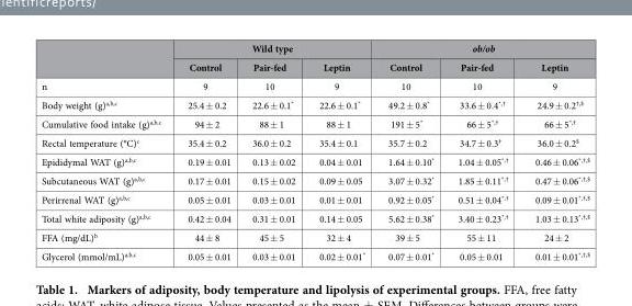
<table><thead><tr><td rowspan="2"></td><td colspan="3">Wild type</td><td colspan="3">ob/ob</td></tr><tr><td>Control</td><td>Pair-fed</td><td>Leptin</td><td>Control</td><td>Pair-fed</td><td>Leptin</td></tr></thead><tbody><tr><td>n</td><td>9</td><td>10</td><td>9</td><td>10</td><td>10</td><td>9</td></tr><tr><td>Body weight (g)<sup>a,b,c</sup></td><td>25.4 ± 0.2</td><td>22.6 ± 0.1*</td><td>22.6 ± 0.1*</td><td>49.2 ± 0.8*</td><td>33.6 ± 0.4<sup>*,†</sup></td><td>24.9 ± 0.2<sup>†,$</sup></td></tr><tr><td>Cumulative food intake (g)<sup>a,b,c</sup></td><td>94 ± 2</td><td>88 ± 1</td><td>88 ± 1</td><td>191 ± 5*</td><td>66 ± 5<sup>*,†</sup></td><td>66 ± 5<sup>*,†</sup></td></tr><tr><td>Rectal temperature (°C)<sup>c</sup></td><td>35.4 ± 0.2</td><td>36.0 ± 0.2</td><td>35.4 ± 0.1</td><td>35.7 ± 0.2</td><td>34.7 ± 0.3<sup>†</sup></td><td>36.0 ± 0.2<sup>$</sup></td></tr><tr><td>Epididymal WAT (g)<sup>a,b,c</sup></td><td>0.19 ± 0.01</td><td>0.13 ± 0.02</td><td>0.04 ± 0.01</td><td>1.64 ± 0.10*</td><td>1.04 ± 0.05<sup>*,†</sup></td><td>0.46 ± 0.06<sup>*,†,$</sup></td></tr><tr><td>Subcutaneous WAT (g)<sup>a,b,c</sup></td><td>0.17 ± 0.01</td><td>0.15 ± 0.02</td><td>0.09 ± 0.05</td><td>3.07 ± 0.32*</td><td>1.85 ± 0.11<sup>*,†</sup></td><td>0.47 ± 0.06<sup>*,†,$</sup></td></tr><tr><td>Perirrenal WAT (g)<sup>a,b,c</sup></td><td>0.05 ± 0.01</td><td>0.03 ± 0.01</td><td>0.01 ± 0.01</td><td>0.92 ± 0.05*</td><td>0.51 ± 0.04<sup>*,†</sup></td><td>0.09 ± 0.01<sup>*,†,$</sup></td></tr><tr><td>Total white adiposity (g)<sup>a,b,c</sup></td><td>0.42 ± 0.04</td><td>0.31 ± 0.01</td><td>0.14 ± 0.05</td><td>5.62 ± 0.38*</td><td>3.40 ± 0.23<sup>*,†</sup></td><td>1.03 ± 0.13<sup>*,†,$</sup></td></tr><tr><td>FFA (mg/dL)<sup>b</sup></td><td>44 ± 8</td><td>45 ± 5</td><td>32 ± 4</td><td>39 ± 5</td><td>55 ± 11</td><td>24 ± 2</td></tr><tr><td>Glycerol (mmol/mL)<sup>a,b,c</sup></td><td>0.05 ± 0.01</td><td>0.03 ± 0.01</td><td>0.02 ± 0.01*</td><td>0.07 ± 0.01*</td><td>0.05 ± 0.01</td><td>0.01 ± 0.01<sup>*,†,$</sup></td></tr></tbody></table>